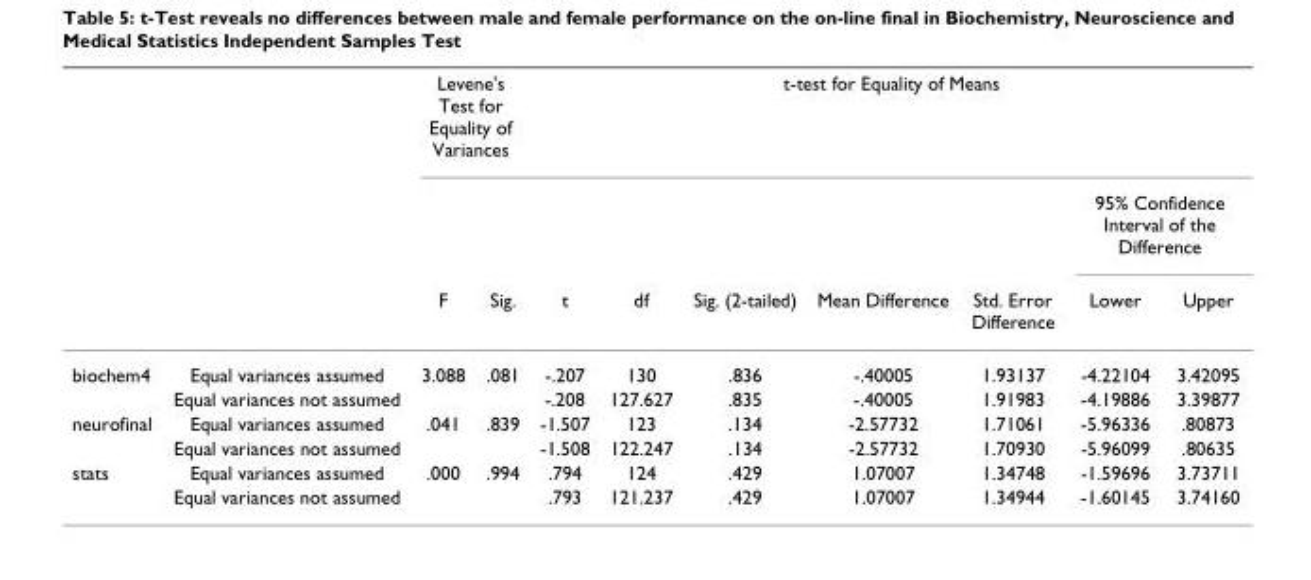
<table><thead><tr><td rowspan="3"></td><td rowspan="3"></td><td colspan="2">Levene&#x27;s Test for Equality of Variances</td><td colspan="7">t-test for Equality of Means</td></tr><tr><td rowspan="2">F</td><td rowspan="2">Sig.</td><td rowspan="2">t</td><td rowspan="2">df</td><td rowspan="2">Sig. (2-tailed)</td><td rowspan="2">Mean Difference</td><td rowspan="2">Std. Error Difference</td><td colspan="2">95% Confidence Interval of the Difference</td></tr><tr><td>Lower</td><td>Upper</td></tr></thead><tbody><tr><td rowspan="2">biochem4</td><td>Equal variances assumed</td><td>3.088</td><td>.081</td><td>-.207</td><td>130</td><td>.836</td><td>-.40005</td><td>1.93137</td><td>-4.22104</td><td>3.42095</td></tr><tr><td>Equal variances not assumed</td><td></td><td></td><td>-.208</td><td>127.627</td><td>.835</td><td>-.40005</td><td>1.91983</td><td>-4.19886</td><td>3.39877</td></tr><tr><td rowspan="2">neurofinal</td><td>Equal variances assumed</td><td>.041</td><td>.839</td><td>-1.507</td><td>123</td><td>.134</td><td>-2.57732</td><td>1.71061</td><td>-5.96336</td><td>.80873</td></tr><tr><td>Equal variances not assumed</td><td></td><td></td><td>-1.508</td><td>122.247</td><td>.134</td><td>-2.57732</td><td>1.70930</td><td>-5.96099</td><td>.80635</td></tr><tr><td rowspan="2">stats</td><td>Equal variances assumed</td><td>.000</td><td>.994</td><td>.794</td><td>124</td><td>.429</td><td>1.07007</td><td>1.34748</td><td>-1.59696</td><td>3.73711</td></tr><tr><td>Equal variances not assumed</td><td></td><td></td><td>.793</td><td>121.237</td><td>.429</td><td>1.07007</td><td>1.34944</td><td>-1.60145</td><td>3.74160</td></tr></tbody></table>